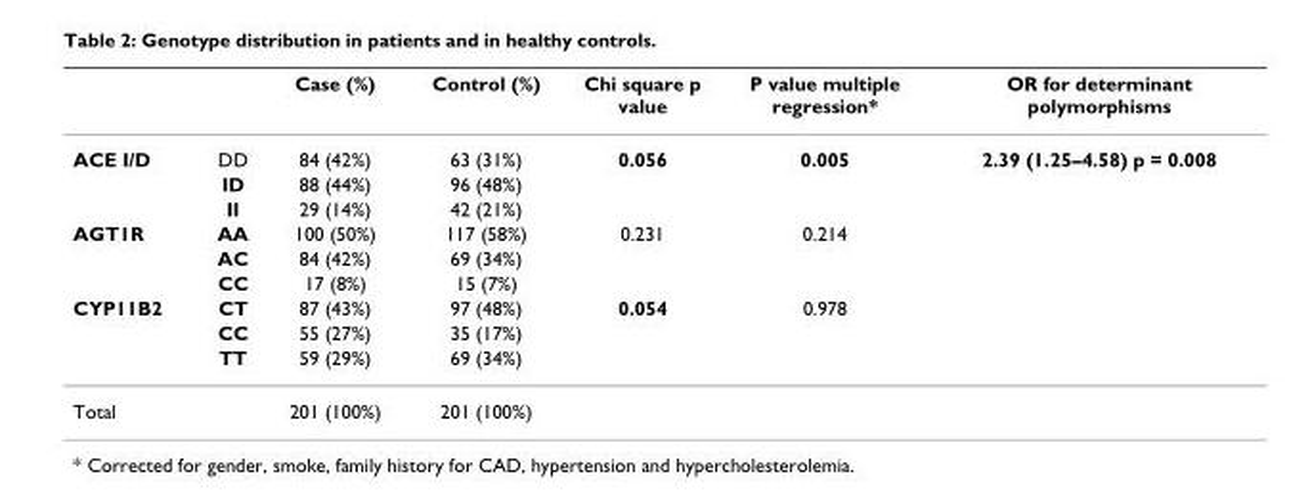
<table><thead><tr><td></td><td></td><td>Case (%)</td><td>Control (%)</td><td>Chi square p value</td><td>P value multiple regression*</td><td>OR for determinant polymorphisms</td></tr></thead><tbody><tr><td rowspan="3">ACE I/D</td><td>DD</td><td>84 (42%)</td><td>63 (31%)</td><td>0.056</td><td>0.005</td><td>2.39 (1.25–4.58) p = 0.008</td></tr><tr><td>ID</td><td>88 (44%)</td><td>96 (48%)</td><td></td><td></td><td></td></tr><tr><td>II</td><td>29 (14%)</td><td>42 (21%)</td><td></td><td></td><td></td></tr><tr><td rowspan="3">AGT1R</td><td>AA</td><td>100 (50%)</td><td>117 (58%)</td><td>0.231</td><td>0.214</td><td></td></tr><tr><td>AC</td><td>84 (42%)</td><td>69 (34%)</td><td></td><td></td><td></td></tr><tr><td>CC</td><td>17 (8%)</td><td>15 (7%)</td><td></td><td></td><td></td></tr><tr><td rowspan="3">CYP11B2</td><td>CT</td><td>87 (43%)</td><td>97 (48%)</td><td>0.054</td><td>0.978</td><td></td></tr><tr><td>CC</td><td>55 (27%)</td><td>35 (17%)</td><td></td><td></td><td></td></tr><tr><td>TT</td><td>59 (29%)</td><td>69 (34%)</td><td></td><td></td><td></td></tr><tr><td colspan="2">Total</td><td>201 (100%)</td><td>201 (100%)</td><td></td><td></td><td></td></tr></tbody></table>